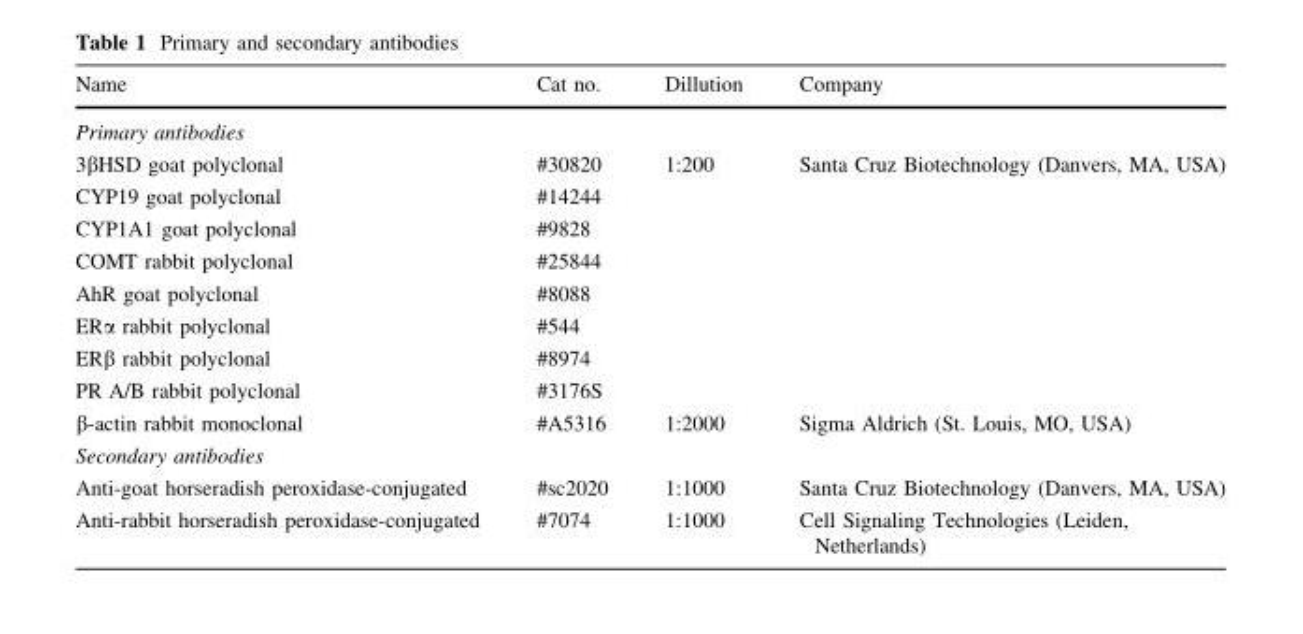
<table><thead><tr><td>Name</td><td>Cat no.</td><td>Dillution</td><td>Company</td></tr></thead><tbody><tr><td colspan="4">Primary antibodies</td></tr><tr><td>3βHSD goat polyclonal</td><td>#30820</td><td rowspan="8">1:200</td><td rowspan="8">Santa Cruz Biotechnology (Danvers, MA, USA)</td></tr><tr><td>CYP19 goat polyclonal</td><td>#14244</td></tr><tr><td>CYP1A1 goat polyclonal</td><td>#9828</td></tr><tr><td>COMT rabbit polyclonal</td><td>#25844</td></tr><tr><td>AhR goat polyclonal</td><td>#8088</td></tr><tr><td>ERα rabbit polyclonal</td><td>#544</td></tr><tr><td>ERβ rabbit polyclonal</td><td>#8974</td></tr><tr><td>PR A/B rabbit polyclonal</td><td>#3176S</td></tr><tr><td>β-actin rabbit monoclonal</td><td>#A5316</td><td>1:2000</td><td>Sigma Aldrich (St. Louis, MO, USA)</td></tr><tr><td colspan="4">Secondary antibodies</td></tr><tr><td>Anti-goat horseradish peroxidase-conjugated</td><td>#sc2020</td><td>1:1000</td><td>Santa Cruz Biotechnology (Danvers, MA, USA)</td></tr><tr><td>Anti-rabbit horseradish peroxidase-conjugated</td><td>#7074</td><td>1:1000</td><td>Cell Signaling Technologies (Leiden, Netherlands)</td></tr></tbody></table>